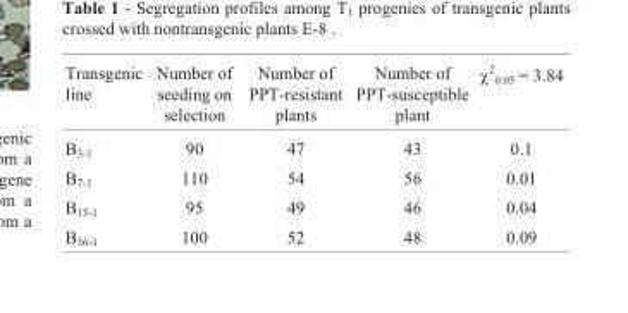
<table><thead><tr><td>Transgenic line</td><td>Number of seeding on selection</td><td>Number of PPT-resistant plants</td><td>Number of PPT-susceptible plant</td><td>χ<sup>2</sup> <sub>0.05</sub> = 3.84</td></tr></thead><tbody><tr><td>B<sub>3-1</sub></td><td>90</td><td>47</td><td>43</td><td>0.1</td></tr><tr><td>B<sub>7-1</sub></td><td>110</td><td>54</td><td>56</td><td>0.01</td></tr><tr><td>B<sub>15-1</sub></td><td>95</td><td>49</td><td>46</td><td>0.04</td></tr><tr><td>B<sub>36-1</sub></td><td>100</td><td>52</td><td>48</td><td>0.09</td></tr></tbody></table>